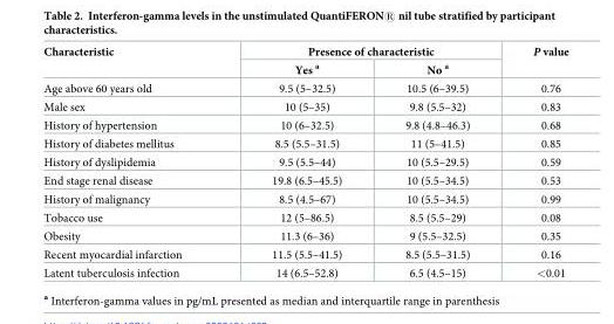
<table><thead><tr><td rowspan="2">Characteristic</td><td colspan="2">Presence of characteristic</td><td rowspan="2">P value</td></tr><tr><td>Yes <sup>a</sup></td><td>No <sup>a</sup></td></tr></thead><tbody><tr><td>Age above 60 years old</td><td>9.5 (5–32.5)</td><td>10.5 (6–39.5)</td><td>0.76</td></tr><tr><td>Male sex</td><td>10 (5–35)</td><td>9.8 (5.5–32)</td><td>0.83</td></tr><tr><td>History of hypertension</td><td>10 (6–32.5)</td><td>9.8 (4.8–46.3)</td><td>0.68</td></tr><tr><td>History of diabetes mellitus</td><td>8.5 (5.5–31.5)</td><td>11 (5–41.5)</td><td>0.85</td></tr><tr><td>History of dyslipidemia</td><td>9.5 (5.5–44)</td><td>10 (5.5–29.5)</td><td>0.59</td></tr><tr><td>End stage renal disease</td><td>19.8 (6.5–45.5)</td><td>10 (5.5–34.5)</td><td>0.53</td></tr><tr><td>History of malignancy</td><td>8.5 (4.5–67)</td><td>10 (5.5–34.5)</td><td>0.99</td></tr><tr><td>Tobacco use</td><td>12 (5–86.5)</td><td>8.5 (5.5–29)</td><td>0.08</td></tr><tr><td>Obesity</td><td>11.3 (6–36)</td><td>9 (5.5–32.5)</td><td>0.35</td></tr><tr><td>Recent myocardial infarction</td><td>11.5 (5.5–41.5)</td><td>8.5 (5.5–31.5)</td><td>0.16</td></tr><tr><td>Latent tuberculosis infection</td><td>14 (6.5–52.8)</td><td>6.5 (4.5–15)</td><td>&lt;0.01</td></tr></tbody></table>